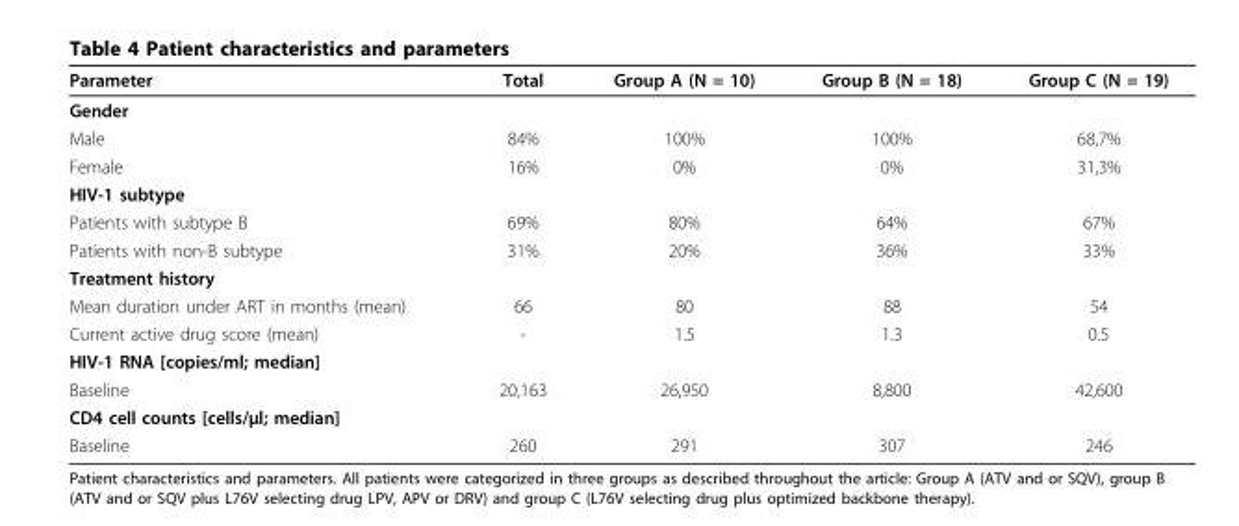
<table><thead><tr><td>Parameter</td><td>Total</td><td>Group A (N = 10)</td><td>Group B (N = 18)</td><td>Group C (N = 19)</td></tr></thead><tbody><tr><td colspan="5">Gender</td></tr><tr><td>Male</td><td>84%</td><td>100%</td><td>100%</td><td>68,7%</td></tr><tr><td>Female</td><td>16%</td><td>0%</td><td>0%</td><td>31,3%</td></tr><tr><td colspan="5">HIV-1 subtype</td></tr><tr><td>Patients with subtype B</td><td>69%</td><td>80%</td><td>64%</td><td>67%</td></tr><tr><td>Patients with non-B subtype</td><td>31%</td><td>20%</td><td>36%</td><td>33%</td></tr><tr><td colspan="5">Treatment history</td></tr><tr><td>Mean duration under ART in months (mean)</td><td>66</td><td>80</td><td>88</td><td>54</td></tr><tr><td>Current active drug score (mean)</td><td>-</td><td>1.5</td><td>1.3</td><td>0.5</td></tr><tr><td colspan="5">HIV-1 RNA [copies/ml; median]</td></tr><tr><td>Baseline</td><td>20,163</td><td>26,950</td><td>8,800</td><td>42,600</td></tr><tr><td colspan="5">CD4 cell counts [cells/μl; median]</td></tr><tr><td>Baseline</td><td>260</td><td>291</td><td>307</td><td>246</td></tr></tbody></table>